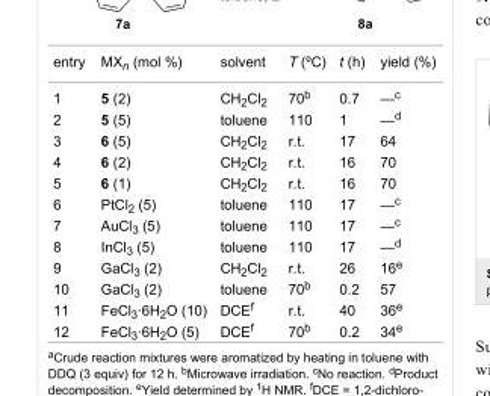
<table><tbody><tr><td>entry</td><td>MX<sub>n</sub> (mol %)</td><td>solvent</td><td>T (ºC)</td><td>t (h)</td><td>yield (%)</td></tr><tr><td>1</td><td>5 (2)</td><td>CH<sub>2</sub>Cl<sub>2</sub></td><td>70<sup>b</sup></td><td>0.7</td><td>—<sup>c</sup></td></tr><tr><td>2</td><td>5 (5)</td><td>toluene</td><td>110</td><td>1</td><td>—<sup>d</sup></td></tr><tr><td>3</td><td>6 (5)</td><td>CH<sub>2</sub>Cl<sub>2</sub></td><td>r.t.</td><td>17</td><td>64</td></tr><tr><td>4</td><td>6 (2)</td><td>CH<sub>2</sub>Cl<sub>2</sub></td><td>r.t.</td><td>16</td><td>70</td></tr><tr><td>5</td><td>6 (1)</td><td>CH<sub>2</sub>Cl<sub>2</sub></td><td>r.t.</td><td>16</td><td>70</td></tr><tr><td>6</td><td>PtCl<sub>2</sub> (5)</td><td>toluene</td><td>110</td><td>17</td><td>—<sup>c</sup></td></tr><tr><td>7</td><td>AuCl<sub>3</sub> (5)</td><td>toluene</td><td>110</td><td>17</td><td>—<sup>c</sup></td></tr><tr><td>8</td><td>InCl<sub>3</sub> (5)</td><td>toluene</td><td>110</td><td>17</td><td>—<sup>d</sup></td></tr><tr><td>9</td><td>GaCl<sub>3</sub> (2)</td><td>CH<sub>2</sub>Cl<sub>2</sub></td><td>r.t.</td><td>26</td><td>16<sup>e</sup></td></tr><tr><td>10</td><td>GaCl<sub>3</sub> (2)</td><td>toluene</td><td>70<sup>b</sup></td><td>0.2</td><td>57</td></tr><tr><td>11</td><td>FeCl<sub>3</sub>·6H<sub>2</sub>O (10)</td><td>DCE<sup>f</sup></td><td>r.t.</td><td>40</td><td>36<sup>e</sup></td></tr><tr><td>12</td><td>FeCl<sub>3</sub>·6H<sub>2</sub>O (5)</td><td>DCE<sup>f</sup></td><td>70<sup>b</sup></td><td>0.2</td><td>34<sup>e</sup></td></tr></tbody></table>